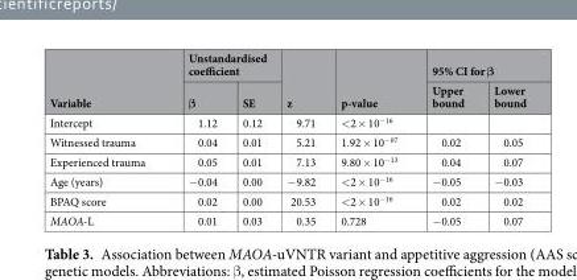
<table><thead><tr><td rowspan="2">Variable</td><td colspan="2">Unstandardised coefficient</td><td rowspan="2">z</td><td rowspan="2">p-value</td><td colspan="2">95% CI for β</td></tr><tr><td>β</td><td>SE</td><td>Upper bound</td><td>Lower bound</td></tr></thead><tbody><tr><td>Intercept</td><td>1.12</td><td>0.12</td><td>9.71</td><td>&lt;2 × 10<sup>−16</sup></td><td></td><td></td></tr><tr><td>Witnessed trauma</td><td>0.04</td><td>0.01</td><td>5.21</td><td>1.92 × 10<sup>−07</sup></td><td>0.02</td><td>0.05</td></tr><tr><td>Experienced trauma</td><td>0.05</td><td>0.01</td><td>7.13</td><td>9.80 × 10<sup>−13</sup></td><td>0.04</td><td>0.07</td></tr><tr><td>Age (years)</td><td>−0.04</td><td>0.00</td><td>−9.82</td><td>&lt;2 × 10<sup>−16</sup></td><td>−0.05</td><td>−0.03</td></tr><tr><td>BPAQ score</td><td>0.02</td><td>0.00</td><td>20.53</td><td>&lt;2 × 10<sup>−16</sup></td><td>0.02</td><td>0.02</td></tr><tr><td>MAOA-L</td><td>0.01</td><td>0.03</td><td>0.35</td><td>0.728</td><td>−0.05</td><td>0.07</td></tr></tbody></table>